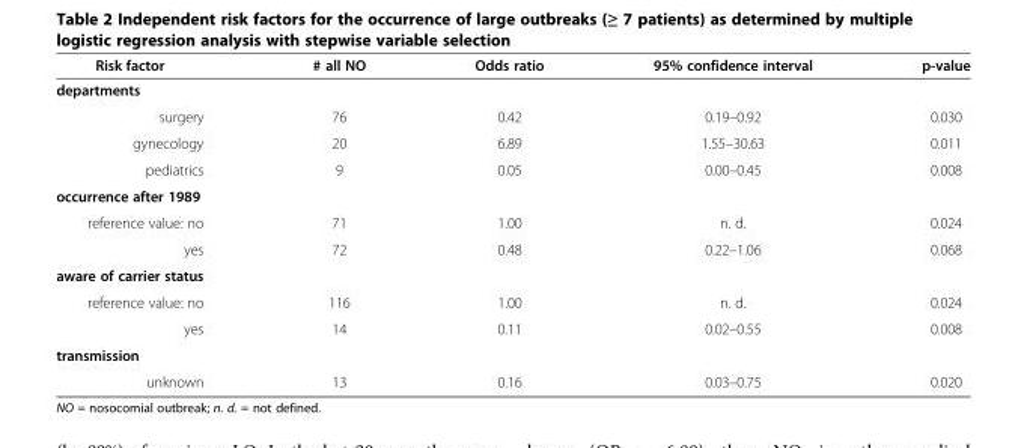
<table><thead><tr><td>Risk factor</td><td># all NO</td><td>Odds ratio</td><td>95% confidence interval</td><td>p-value</td></tr></thead><tbody><tr><td colspan="5">departments</td></tr><tr><td>surgery</td><td>76</td><td>0.42</td><td>0.19–0.92</td><td>0.030</td></tr><tr><td>gynecology</td><td>20</td><td>6.89</td><td>1.55–30.63</td><td>0.011</td></tr><tr><td>pediatrics</td><td>9</td><td>0.05</td><td>0.00–0.45</td><td>0.008</td></tr><tr><td colspan="5">occurrence after 1989</td></tr><tr><td>reference value: no</td><td>71</td><td>1.00</td><td>n. d.</td><td>0.024</td></tr><tr><td>yes</td><td>72</td><td>0.48</td><td>0.22–1.06</td><td>0.068</td></tr><tr><td colspan="5">aware of carrier status</td></tr><tr><td>reference value: no</td><td>116</td><td>1.00</td><td>n. d.</td><td>0.024</td></tr><tr><td>yes</td><td>14</td><td>0.11</td><td>0.02–0.55</td><td>0.008</td></tr><tr><td colspan="5">transmission</td></tr><tr><td>unknown</td><td>13</td><td>0.16</td><td>0.03–0.75</td><td>0.020</td></tr></tbody></table>